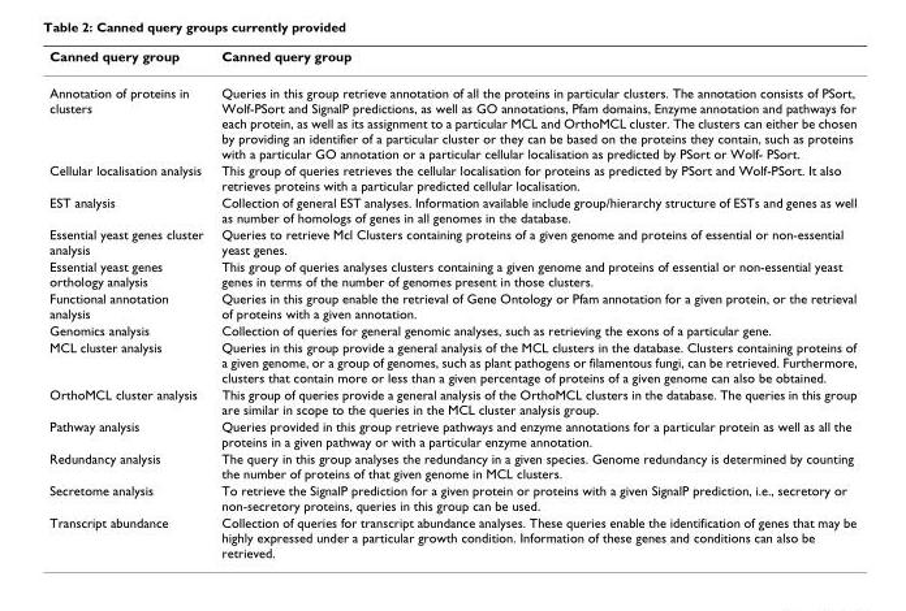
<table><thead><tr><td>Canned query group</td><td>Canned query group</td></tr></thead><tbody><tr><td>Annotation of proteins in clusters</td><td>Queries in this group retrieve annotation of all the proteins in particular clusters. The annotation consists of PSort, Wolf-PSort and SignalP predictions, as well as GO annotations, Pfam domains, Enzyme annotation and pathways for each protein, as well as its assignment to a particular MCL and OrthoMCL cluster. The clusters can either be chosen by providing an identifier of a particular cluster or they can be based on the proteins they contain, such as proteins with a particular GO annotation or a particular cellular localisation as predicted by PSort or Wolf- PSort.</td></tr><tr><td>Cellular localisation analysis</td><td>This group of queries retrieves the cellular localisation for proteins as predicted by PSort and Wolf-PSort. It also retrieves proteins with a particular predicted cellular localisation.</td></tr><tr><td>EST analysis</td><td>Collection of general EST analyses. Information available include group/hierarchy structure of ESTs and genes as well as number of homologs of genes in all genomes in the database.</td></tr><tr><td>Essential yeast genes cluster analysis</td><td>Queries to retrieve Mcl Clusters containing proteins of a given genome and proteins of essential or non-essential yeast genes.</td></tr><tr><td>Essential yeast genes orthology analysis</td><td>This group of queries analyses clusters containing a given genome and proteins of essential or non-essential yeast genes in terms of the number of genomes present in those clusters.</td></tr><tr><td>Functional annotation analysis</td><td>Queries in this group enable the retrieval of Gene Ontology or Pfam annotation for a given protein, or the retrieval of proteins with a given annotation.</td></tr><tr><td>Genomics analysis</td><td>Collection of queries for general genomic analyses, such as retrieving the exons of a particular gene.</td></tr><tr><td>MCL cluster analysis</td><td>Queries in this group provide a general analysis of the MCL clusters in the database. Clusters containing proteins of a given genome, or a group of genomes, such as plant pathogens or filamentous fungi, can be retrieved. Furthermore, clusters that contain more or less than a given percentage of proteins of a given genome can also be obtained.</td></tr><tr><td>OrthoMCL cluster analysis</td><td>This group of queries provide a general analysis of the OrthoMCL clusters in the database. The queries in this group are similar in scope to the queries in the MCL cluster analysis group.</td></tr><tr><td>Pathway analysis</td><td>Queries provided in this group retrieve pathways and enzyme annotations for a particular protein as well as all the proteins in a given pathway or with a particular enzyme annotation.</td></tr><tr><td>Redundancy analysis</td><td>The query in this group analyses the redundancy in a given species. Genome redundancy is determined by counting the number of proteins of that given genome in MCL clusters.</td></tr><tr><td>Secretome analysis</td><td>To retrieve the SignalP prediction for a given protein or proteins with a given SignalP prediction, i.e., secretory or non-secretory proteins, queries in this group can be used.</td></tr><tr><td>Transcript abundance</td><td>Collection of queries for transcript abundance analyses. These queries enable the identification of genes that may be highly expressed under a particular growth condition. Information of these genes and conditions can also be retrieved.</td></tr></tbody></table>